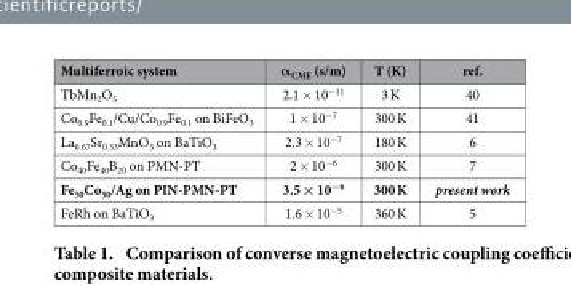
<table><thead><tr><td>Multiferroic system</td><td>α<sub>CME</sub> (s/m)</td><td>T (K)</td><td>ref.</td></tr></thead><tbody><tr><td>TbMn<sub>2</sub>O<sub>5</sub></td><td>2.1 × 10<sup>−11</sup></td><td>3 K</td><td>40</td></tr><tr><td>Co<sub>0.9</sub>Fe<sub>0.1</sub>/Cu/Co<sub>0.9</sub>Fe<sub>0.1</sub> on BiFeO<sub>3</sub></td><td>1 × 10<sup>−7</sup></td><td>300 K</td><td>41</td></tr><tr><td>La<sub>0.67</sub>Sr<sub>0.33</sub>MnO<sub>3</sub> on BaTiO<sub>3</sub></td><td>2.3 × 10<sup>−7</sup></td><td>180 K</td><td>6</td></tr><tr><td>Co<sub>40</sub>Fe<sub>40</sub>B<sub>20</sub> on PMN-PT</td><td>2 × 10<sup>−6</sup></td><td>300 K</td><td>7</td></tr><tr><td>Fe<sub>50</sub>Co<sub>50</sub>/Ag on PIN-PMN-PT</td><td>3.5 × 10<sup>−6</sup></td><td>300 K</td><td>present work</td></tr><tr><td>FeRh on BaTiO<sub>3</sub></td><td>1.6 × 10<sup>−5</sup></td><td>360 K</td><td>5</td></tr></tbody></table>